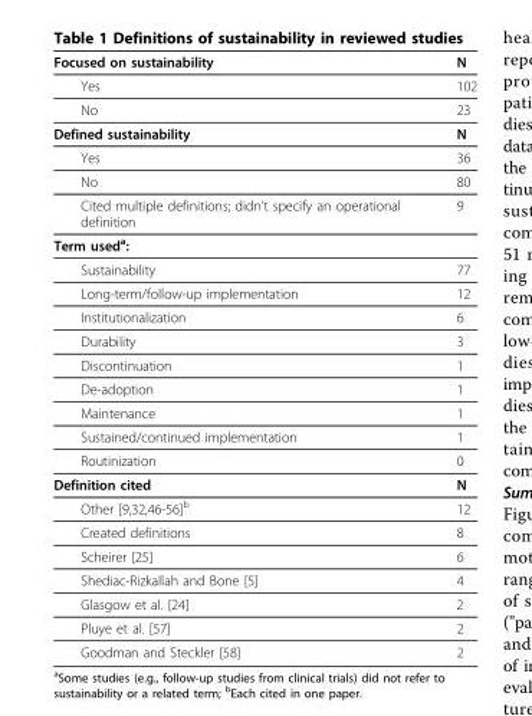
<table><thead><tr><td>Focused on sustainability</td><td>N</td></tr></thead><tbody><tr><td>Yes</td><td>102</td></tr><tr><td>No</td><td>23</td></tr><tr><td>Defined sustainability</td><td>N</td></tr><tr><td>Yes</td><td>36</td></tr><tr><td>No</td><td>80</td></tr><tr><td>Cited multiple definitions; didn’t specify an operational definition</td><td>9</td></tr><tr><td colspan="2">Term useda:</td></tr><tr><td>Sustainability</td><td>77</td></tr><tr><td>Long-term/follow-up implementation</td><td>12</td></tr><tr><td>Institutionalization</td><td>6</td></tr><tr><td>Durability</td><td>3</td></tr><tr><td>Discontinuation</td><td>1</td></tr><tr><td>De-adoption</td><td>1</td></tr><tr><td>Maintenance</td><td>1</td></tr><tr><td>Sustained/continued implementation</td><td>1</td></tr><tr><td>Routinization</td><td>0</td></tr><tr><td>Definition cited</td><td>N</td></tr><tr><td>Other [9,32,46-56]b</td><td>12</td></tr><tr><td>Created definitions</td><td>8</td></tr><tr><td>Scheirer [25]</td><td>6</td></tr><tr><td>Shediac-Rizkallah and Bone [5]</td><td>4</td></tr><tr><td>Glasgow et al. [24]</td><td>2</td></tr><tr><td>Pluye et al. [57]</td><td>2</td></tr><tr><td>Goodman and Steckler [58]</td><td>2</td></tr></tbody></table>